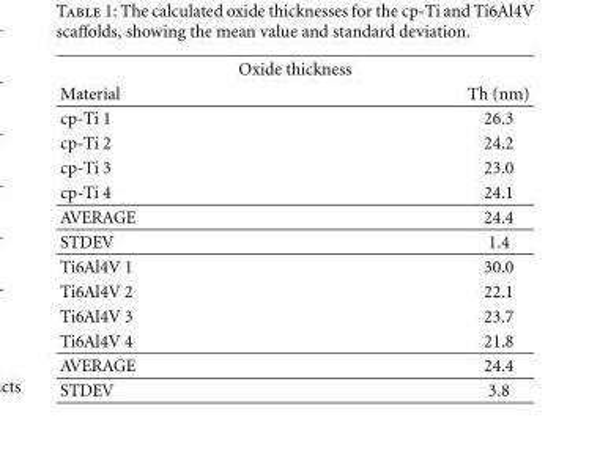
<table><thead><tr><td colspan="2">Oxide thickness</td></tr><tr><td>Material</td><td>Th (nm)</td></tr></thead><tbody><tr><td>cp-Ti 1</td><td>26.3</td></tr><tr><td>cp-Ti 2</td><td>24.2</td></tr><tr><td>cp-Ti 3</td><td>23.0</td></tr><tr><td>cp-Ti 4</td><td>24.1</td></tr><tr><td>AVERAGE</td><td>24.4</td></tr><tr><td>STDEV</td><td>1.4</td></tr><tr><td>Ti6Al4V 1</td><td>30.0</td></tr><tr><td>Ti6Al4V 2</td><td>22.1</td></tr><tr><td>Ti6Al4V 3</td><td>23.7</td></tr><tr><td>Ti6Al4V 4</td><td>21.8</td></tr><tr><td>AVERAGE</td><td>24.4</td></tr><tr><td>STDEV</td><td>3.8</td></tr></tbody></table>